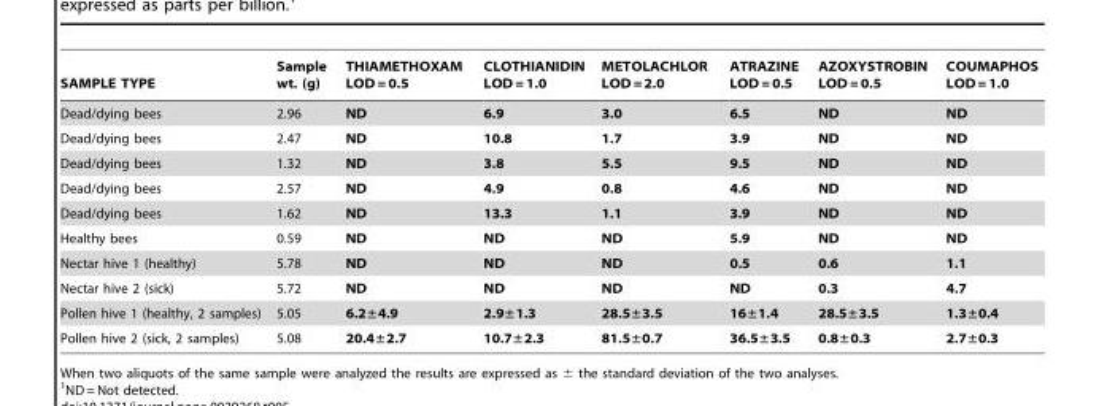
<table><thead><tr><td>SAMPLE TYPE</td><td>Sample wt. (g)</td><td>THIAMETHOXAM LOD = 0.5</td><td>CLOTHIANIDIN LOD = 1.0</td><td>METOLACHLOR LOD = 2.0</td><td>ATRAZINE LOD = 0.5</td><td>AZOXYSTROBIN LOD = 0.5</td><td>COUMAPHOS LOD = 1.0</td></tr></thead><tbody><tr><td>Dead/dying bees</td><td>2.96</td><td>ND</td><td>6.9</td><td>3.0</td><td>6.5</td><td>ND</td><td>ND</td></tr><tr><td>Dead/dying bees</td><td>2.47</td><td>ND</td><td>10.8</td><td>1.7</td><td>3.9</td><td>ND</td><td>ND</td></tr><tr><td>Dead/dying bees</td><td>1.32</td><td>ND</td><td>3.8</td><td>5.5</td><td>9.5</td><td>ND</td><td>ND</td></tr><tr><td>Dead/dying bees</td><td>2.57</td><td>ND</td><td>4.9</td><td>0.8</td><td>4.6</td><td>ND</td><td>ND</td></tr><tr><td>Dead/dying bees</td><td>1.62</td><td>ND</td><td>13.3</td><td>1.1</td><td>3.9</td><td>ND</td><td>ND</td></tr><tr><td>Healthy bees</td><td>0.59</td><td>ND</td><td>ND</td><td>ND</td><td>5.9</td><td>ND</td><td>ND</td></tr><tr><td>Nectar hive 1 (healthy)</td><td>5.78</td><td>ND</td><td>ND</td><td>ND</td><td>0.5</td><td>0.6</td><td>1.1</td></tr><tr><td>Nectar hive 2 (sick)</td><td>5.72</td><td>ND</td><td>ND</td><td>ND</td><td>ND</td><td>0.3</td><td>4.7</td></tr><tr><td>Pollen hive 1 (healthy, 2 samples)</td><td>5.05</td><td>6.2±4.9</td><td>2.9±1.3</td><td>28.5±3.5</td><td>16±1.4</td><td>28.5±3.5</td><td>1.3±0.4</td></tr><tr><td>Pollen hive 2 (sick, 2 samples)</td><td>5.08</td><td>20.4±2.7</td><td>10.7±2.3</td><td>81.5±0.7</td><td>36.5±3.5</td><td>0.8±0.3</td><td>2.7±0.3</td></tr></tbody></table>